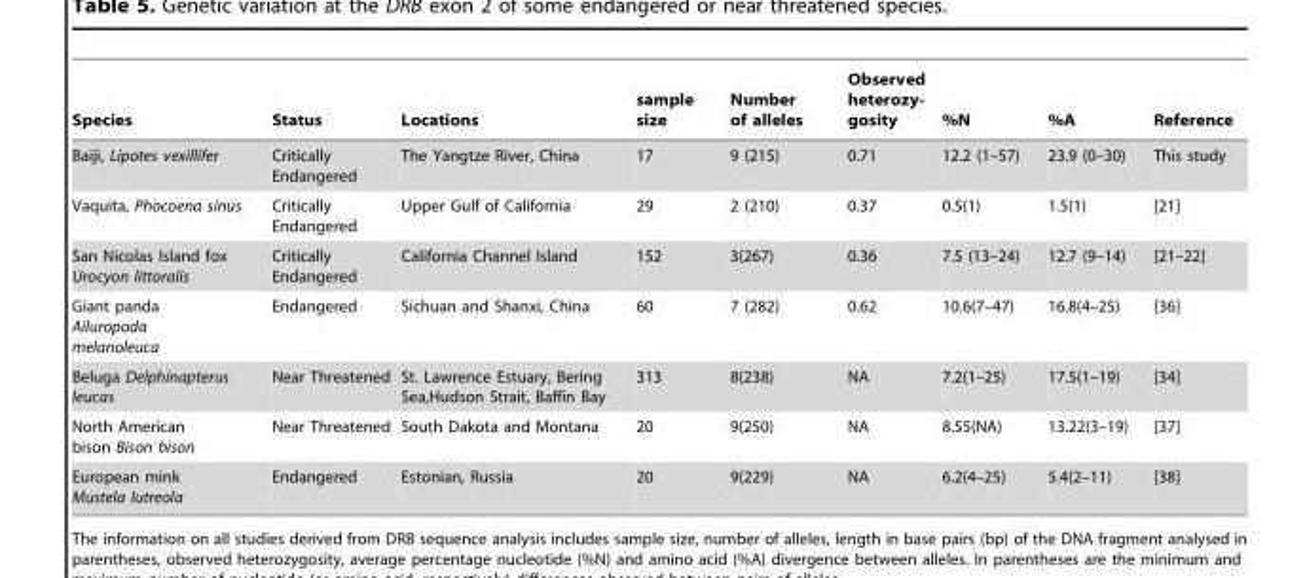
<table><thead><tr><td>Species</td><td>Status</td><td>Locations</td><td>sample size</td><td>Number of alleles</td><td>Observed heterozy- gosity</td><td>%N</td><td>%A</td><td>Reference</td></tr></thead><tbody><tr><td>Baiji, Lipotes vexillifer</td><td>Critically Endangered</td><td>The Yangtze River, China</td><td>17</td><td>9 (215)</td><td>0.71</td><td>12.2 (1–57)</td><td>23.9 (0–30)</td><td>This study</td></tr><tr><td>Vaquita, Phocoena sinus</td><td>Critically Endangered</td><td>Upper Gulf of California</td><td>29</td><td>2 (210)</td><td>0.37</td><td>0.5(1)</td><td>1.5(1)</td><td>[21]</td></tr><tr><td>San Nicolas Island fox Urocyon littoralis</td><td>Critically Endangered</td><td>California Channel Island</td><td>152</td><td>3(267)</td><td>0.36</td><td>7.5 (13–24)</td><td>12.7 (9–14)</td><td>[21–22]</td></tr><tr><td>Giant panda Ailuropoda melanoleuca</td><td>Endangered</td><td>Sichuan and Shanxi, China</td><td>60</td><td>7 (282)</td><td>0.62</td><td>10.6(7–47)</td><td>16.8(4–25)</td><td>[36]</td></tr><tr><td>Beluga Delphinapterus leucas</td><td>Near Threatened</td><td>St. Lawrence Estuary, Bering Sea,Hudson Strait, Baffin Bay</td><td>313</td><td>8(238)</td><td>NA</td><td>7.2(1–25)</td><td>17.5(1–19)</td><td>[34]</td></tr><tr><td>North American bison Bison bison</td><td>Near Threatened</td><td>South Dakota and Montana</td><td>20</td><td>9(250)</td><td>NA</td><td>8.55(NA)</td><td>13.22(3–19)</td><td>[37]</td></tr><tr><td>European mink Mustela lutreola</td><td>Endangered</td><td>Estonian, Russia</td><td>20</td><td>9(229)</td><td>NA</td><td>6.2(4–25)</td><td>5.4(2–11)</td><td>[38]</td></tr></tbody></table>